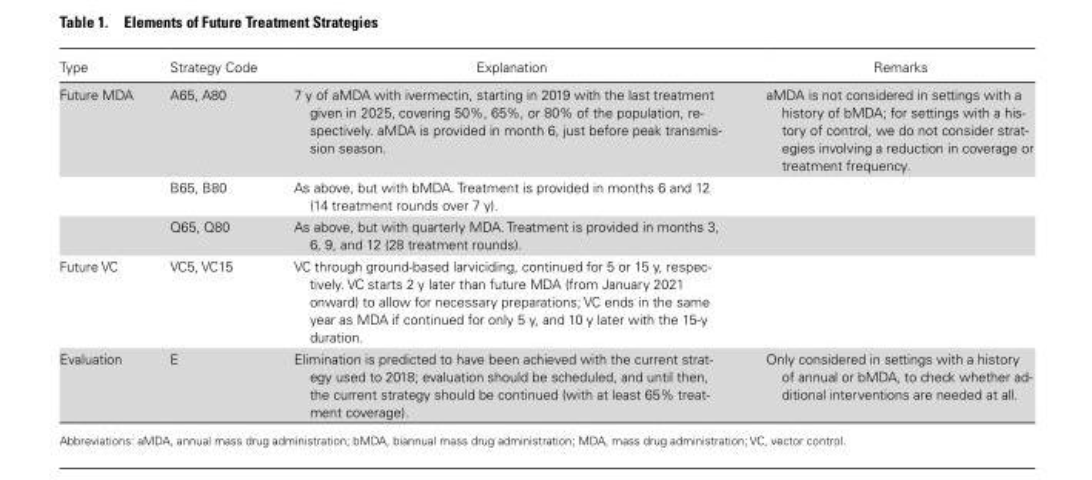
<table><thead><tr><td>Type</td><td>Strategy Code</td><td>Explanation</td><td>Remarks</td></tr></thead><tbody><tr><td rowspan="3">Future MDA</td><td>A65, A80</td><td>7 y of aMDA with ivermectin, starting in 2019 with the last treatment given in 2025, covering 50%, 65%, or 80% of the population, re- spectively. aMDA is provided in month 6, just before peak transmis- sion season.</td><td>aMDA is not considered in settings with a history of bMDA; for settings with a his- tory of control, we do not consider strat- egies involving a reduction in coverage or treatment frequency.</td></tr><tr><td>B65, B80</td><td>As above, but with bMDA. Treatment is provided in months 6 and 12 (14 treatment rounds over 7 y).</td><td></td></tr><tr><td>Q65, Q80</td><td>As above, but with quarterly MDA. Treatment is provided in months 3, 6, 9, and 12 (28 treatment rounds).</td><td></td></tr><tr><td>Future VC</td><td>VC5, VC15</td><td>VC through ground-based larviciding, continued for 5 or 15 y, respec- tively. VC starts 2 y later than future MDA (from January 2021 onward) to allow for necessary preparations; VC ends in the same year as MDA if continued for only 5 y, and 10 y later with the 15-y duration.</td><td></td></tr><tr><td>Evaluation</td><td>E</td><td>Elimination is predicted to have been achieved with the current strat- egy used to 2018; evaluation should be scheduled, and until then, the current strategy should be continued (with at least 65% treat- ment coverage).</td><td>Only considered in settings with a history of annual or bMDA, to check whether ad- ditional interventions are needed at all.</td></tr></tbody></table>